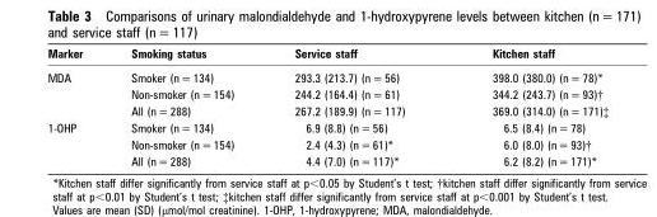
<table><thead><tr><td>Marker</td><td>Smoking status</td><td>Service staff</td><td>Kitchen staff</td></tr></thead><tbody><tr><td rowspan="3">MDA</td><td>Smoker (n = 134)</td><td>293.3 (213.7) (n = 56)</td><td>398.0 (380.0) (n = 78)*</td></tr><tr><td>Non-smoker (n = 154)</td><td>244.2 (164.4) (n = 61)</td><td>344.2 (243.7) (n = 93)†</td></tr><tr><td>All (n = 288)</td><td>267.2 (189.9) (n = 117)</td><td>369.0 (314.0) (n = 171)‡</td></tr><tr><td rowspan="3">1-OHP</td><td>Smoker (n = 134)</td><td>6.9 (8.8) (n = 56)</td><td>6.5 (8.4) (n = 78)</td></tr><tr><td>Non-smoker (n = 154)</td><td>2.4 (4.3) (n = 61)*</td><td>6.0 (8.0) (n = 93)†</td></tr><tr><td>All (n = 288)</td><td>4.4 (7.0) (n = 117)*</td><td>6.2 (8.2) (n = 171)*</td></tr></tbody></table>